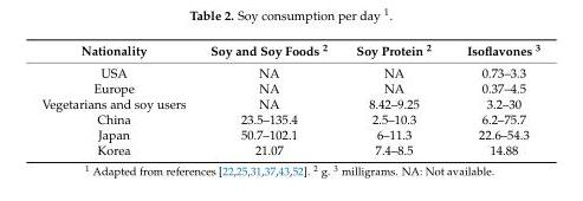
<table><thead><tr><td>Nationality</td><td>Soy and Soy Foods <sup>2</sup></td><td>Soy Protein <sup>2</sup></td><td>Isoflavones <sup>3</sup></td></tr></thead><tbody><tr><td>USA</td><td>NA</td><td>NA</td><td>0.73–3.3</td></tr><tr><td>Europe</td><td>NA</td><td>NA</td><td>0.37–4.5</td></tr><tr><td>Vegetarians and soy users</td><td>NA</td><td>8.42–9.25</td><td>3.2–30</td></tr><tr><td>China</td><td>23.5–135.4</td><td>2.5–10.3</td><td>6.2–75.7</td></tr><tr><td>Japan</td><td>50.7–102.1</td><td>6–11.3</td><td>22.6–54.3</td></tr><tr><td>Korea</td><td>21.07</td><td>7.4–8.5</td><td>14.88</td></tr></tbody></table>